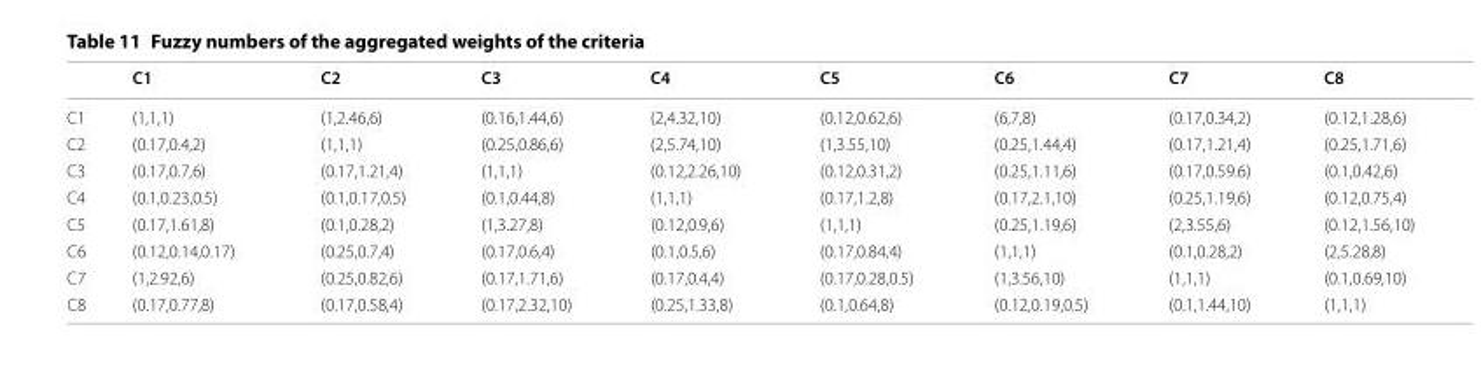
<table><thead><tr><td></td><td>C1</td><td>C2</td><td>C3</td><td>C4</td><td>C5</td><td>C6</td><td>C7</td><td>C8</td></tr></thead><tbody><tr><td>C1</td><td>(1,1,1)</td><td>(1,2.46,6)</td><td>(0.16,1.44,6)</td><td>(2,4.32,10)</td><td>(0.12,0.62,6)</td><td>(6,7,8)</td><td>(0.17,0.34,2)</td><td>(0.12,1.28,6)</td></tr><tr><td>C2</td><td>(0.17,0.4,2)</td><td>(1,1,1)</td><td>(0.25,0.86,6)</td><td>(2,5.74,10)</td><td>(1,3.55,10)</td><td>(0.25,1.44,4)</td><td>(0.17,1.21,4)</td><td>(0.25,1.71,6)</td></tr><tr><td>C3</td><td>(0.17,0.7,6)</td><td>(0.17,1.21,4)</td><td>(1,1,1)</td><td>(0.12,2.26,10)</td><td>(0.12,0.31,2)</td><td>(0.25,1.11,6)</td><td>(0.17,0.59.6)</td><td>(0.1,0.42,6)</td></tr><tr><td>C4</td><td>(0.1,0.23,0.5)</td><td>(0.1,0.17,0.5)</td><td>(0.1,0.44,8)</td><td>(1,1,1)</td><td>(0.17,1.2,8)</td><td>(0.17,2.1,10)</td><td>(0.25,1.19,6)</td><td>(0.12,0.75,4)</td></tr><tr><td>C5</td><td>(0.17,1.61,8)</td><td>(0.1,0.28,2)</td><td>(1,3.27,8)</td><td>(0.12,0.9,6)</td><td>(1,1,1)</td><td>(0.25,1.19,6)</td><td>(2,3.55,6)</td><td>(0.12,1.56,10)</td></tr><tr><td>C6</td><td>(0.12,0.14,0.17)</td><td>(0.25,0.7,4)</td><td>(0.17,0.6,4)</td><td>(0.1,0.5,6)</td><td>(0.17,0.84,4)</td><td>(1,1,1)</td><td>(0.1,0.28,2)</td><td>(2,5.28,8)</td></tr><tr><td>C7</td><td>(1,2.92,6)</td><td>(0.25,0.82,6)</td><td>(0.17,1.71,6)</td><td>(0.17,0.4,4)</td><td>(0.17,0.28,0.5)</td><td>(1,3.56,10)</td><td>(1,1,1)</td><td>(0.1,0.69,10)</td></tr><tr><td>C8</td><td>(0.17,0.77,8)</td><td>(0.17,0.58,4)</td><td>(0.17,2.32,10)</td><td>(0.25,1.33,8)</td><td>(0.1,0.64,8)</td><td>(0.12,0.19,0.5)</td><td>(0.1,1.44,10)</td><td>(1,1,1)</td></tr></tbody></table>